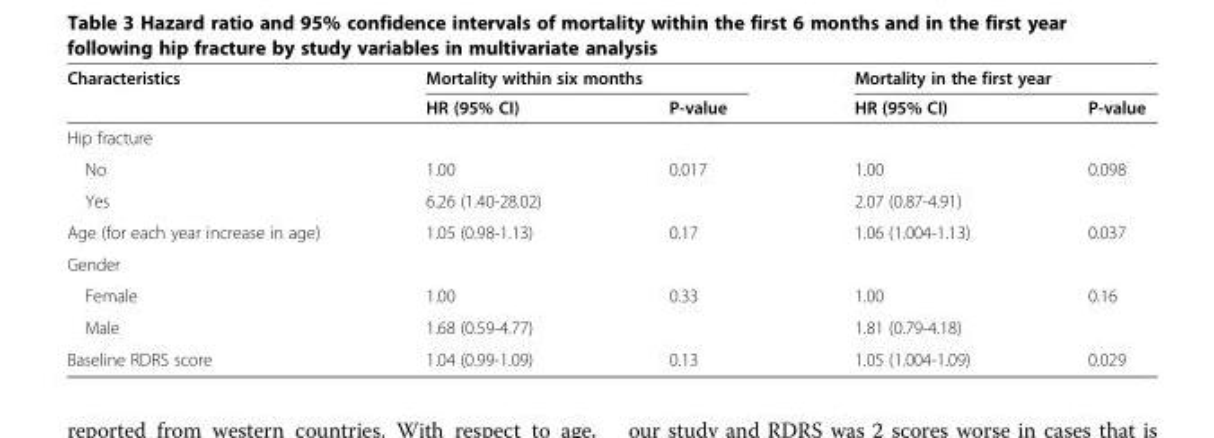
<table><thead><tr><td rowspan="2">Characteristics</td><td colspan="2">Mortality within six months</td><td colspan="2">Mortality in the first year</td></tr><tr><td>HR (95% CI)</td><td>P-value</td><td>HR (95% CI)</td><td>P-value</td></tr></thead><tbody><tr><td colspan="5">Hip fracture</td></tr><tr><td>No</td><td>1.00</td><td>0.017</td><td>1.00</td><td>0.098</td></tr><tr><td>Yes</td><td>6.26 (1.40-28.02)</td><td></td><td>2.07 (0.87-4.91)</td><td></td></tr><tr><td>Age (for each year increase in age)</td><td>1.05 (0.98-1.13)</td><td>0.17</td><td>1.06 (1.004-1.13)</td><td>0.037</td></tr><tr><td colspan="5">Gender</td></tr><tr><td>Female</td><td>1.00</td><td>0.33</td><td>1.00</td><td>0.16</td></tr><tr><td>Male</td><td>1.68 (0.59-4.77)</td><td></td><td>1.81 (0.79-4.18)</td><td></td></tr><tr><td>Baseline RDRS score</td><td>1.04 (0.99-1.09)</td><td>0.13</td><td>1.05 (1.004-1.09)</td><td>0.029</td></tr></tbody></table>